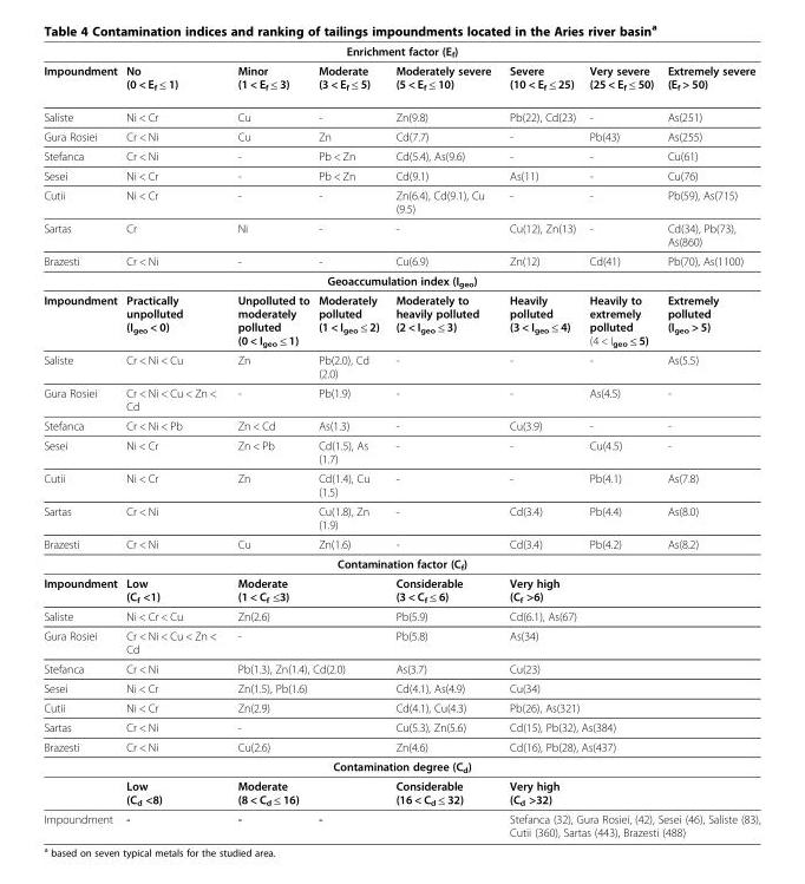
<table><thead><tr><td colspan="8">Enrichment factor (E<sub>f</sub>)</td></tr><tr><td>Impoundment</td><td>No (0 &lt; E<sub>f</sub> ≤ 1)</td><td>Minor (1 &lt; E<sub>f</sub> ≤ 3)</td><td>Moderate (3 &lt; E<sub>f</sub> ≤ 5)</td><td>Moderately severe (5 &lt; E<sub>f</sub> ≤ 10)</td><td>Severe (10 &lt; E<sub>f</sub> ≤ 25)</td><td>Very severe (25 &lt; E<sub>f</sub> ≤ 50)</td><td>Extremely severe (E<sub>f</sub> &gt; 50)</td></tr></thead><tbody><tr><td>Saliste</td><td>Ni &lt; Cr</td><td>Cu</td><td>-</td><td>Zn(9.8)</td><td>Pb(22), Cd(23)</td><td>-</td><td>As(251)</td></tr><tr><td>Gura Rosiei</td><td>Cr &lt; Ni</td><td>Cu</td><td>Zn</td><td>Cd(7.7)</td><td>-</td><td>Pb(43)</td><td>As(255)</td></tr><tr><td>Stefanca</td><td>Cr &lt; Ni</td><td>-</td><td>Pb &lt; Zn</td><td>Cd(5.4), As(9.6)</td><td>-</td><td>-</td><td>Cu(61)</td></tr><tr><td>Sesei</td><td>Ni &lt; Cr</td><td>-</td><td>Pb &lt; Zn</td><td>Cd(9.1)</td><td>As(11)</td><td>-</td><td>Cu(76)</td></tr><tr><td>Cutii</td><td>Ni &lt; Cr</td><td>-</td><td>-</td><td>Zn(6.4), Cd(9.1), Cu (9.5)</td><td>-</td><td>-</td><td>Pb(59), As(715)</td></tr><tr><td>Sartas</td><td>Cr</td><td>Ni</td><td>-</td><td>-</td><td>Cu(12), Zn(13)</td><td>-</td><td>Cd(34), Pb(73), As(860)</td></tr><tr><td>Brazesti</td><td>Cr &lt; Ni</td><td>-</td><td>-</td><td>Cu(6.9)</td><td>Zn(12)</td><td>Cd(41)</td><td>Pb(70), As(1100)</td></tr><tr><td colspan="8">Geoaccumulation index (I<sub>geo</sub>)</td></tr><tr><td>Impoundment</td><td>Practically unpolluted (I<sub>geo</sub> &lt; 0)</td><td>Unpolluted to moderately polluted (0 &lt; I<sub>geo</sub> ≤ 1)</td><td>Moderately polluted (1 &lt; I<sub>geo</sub> ≤ 2)</td><td>Moderately to heavily polluted (2 &lt; I<sub>geo</sub> ≤ 3)</td><td>Heavily polluted (3 &lt; I<sub>geo</sub> ≤ 4)</td><td>Heavily to extremely polluted (4 &lt; I<sub>geo</sub> ≤ 5)</td><td>Extremely polluted (I<sub>geo</sub> &gt; 5)</td></tr><tr><td>Saliste</td><td>Cr &lt; Ni &lt; Cu</td><td>Zn</td><td>Pb(2.0), Cd (2.0)</td><td>-</td><td>-</td><td>-</td><td>As(5.5)</td></tr><tr><td>Gura Rosiei</td><td>Cr &lt; Ni &lt; Cu &lt; Zn &lt; Cd</td><td>-</td><td>Pb(1.9)</td><td>-</td><td>-</td><td>As(4.5)</td><td>-</td></tr><tr><td>Stefanca</td><td>Cr &lt; Ni &lt; Pb</td><td>Zn &lt; Cd</td><td>As(1.3)</td><td>-</td><td>Cu(3.9)</td><td>-</td><td>-</td></tr><tr><td>Sesei</td><td>Ni &lt; Cr</td><td>Zn &lt; Pb</td><td>Cd(1.5), As (1.7)</td><td>-</td><td>-</td><td>Cu(4.5)</td><td>-</td></tr><tr><td>Cutii</td><td>Ni &lt; Cr</td><td>Zn</td><td>Cd(1.4), Cu (1.5)</td><td>-</td><td>-</td><td>Pb(4.1)</td><td>As(7.8)</td></tr><tr><td>Sartas</td><td>Cr &lt; Ni</td><td></td><td>Cu(1.8), Zn (1.9)</td><td>-</td><td>Cd(3.4)</td><td>Pb(4.4)</td><td>As(8.0)</td></tr><tr><td>Brazesti</td><td>Cr &lt; Ni</td><td>Cu</td><td>Zn(1.6)</td><td>-</td><td>Cd(3.4)</td><td>Pb(4.2)</td><td>As(8.2)</td></tr><tr><td colspan="8">Contamination factor (C<sub>f</sub>)</td></tr><tr><td>Impoundment</td><td>Low (C<sub>f</sub> &lt;1)</td><td colspan="2">Moderate (1 &lt; C<sub>f</sub> ≤3)</td><td>Considerable (3 &lt; C<sub>f</sub> ≤ 6)</td><td colspan="3">Very high (C<sub>f</sub> &gt;6)</td></tr><tr><td>Saliste</td><td>Ni &lt; Cr &lt; Cu</td><td colspan="2">Zn(2.6)</td><td>Pb(5.9)</td><td colspan="3">Cd(6.1), As(67)</td></tr><tr><td>Gura Rosiei</td><td>Cr &lt; Ni &lt; Cu &lt; Zn &lt; Cd</td><td colspan="2">-</td><td>Pb(5.8)</td><td colspan="3">As(34)</td></tr><tr><td>Stefanca</td><td>Cr &lt; Ni</td><td colspan="2">Pb(1.3), Zn(1.4), Cd(2.0)</td><td>As(3.7)</td><td colspan="3">Cu(23)</td></tr><tr><td>Sesei</td><td>Ni &lt; Cr</td><td colspan="2">Zn(1.5), Pb(1.6)</td><td>Cd(4.1), As(4.9)</td><td colspan="3">Cu(34)</td></tr><tr><td>Cutii</td><td>Ni &lt; Cr</td><td colspan="2">Zn(2.9)</td><td>Cd(4.1), Cu(4.3)</td><td colspan="3">Pb(26), As(321)</td></tr><tr><td>Sartas</td><td>Cr &lt; Ni</td><td colspan="2">-</td><td>Cu(5.3), Zn(5.6)</td><td colspan="3">Cd(15), Pb(32), As(384)</td></tr><tr><td>Brazesti</td><td>Cr &lt; Ni</td><td colspan="2">Cu(2.6)</td><td>Zn(4.6)</td><td colspan="3">Cd(16), Pb(28), As(437)</td></tr><tr><td colspan="8">Contamination degree (C<sub>d</sub>)</td></tr><tr><td></td><td>Low (C<sub>d</sub> &lt;8)</td><td colspan="2">Moderate (8 &lt; C<sub>d</sub> ≤ 16)</td><td>Considerable (16 &lt; C<sub>d</sub> ≤ 32)</td><td colspan="3">Very high (C<sub>d</sub> &gt;32)</td></tr><tr><td>Impoundment</td><td>-</td><td>-</td><td>-</td><td></td><td colspan="3">Stefanca (32), Gura Rosiei, (42), Sesei (46), Saliste (83), Cutii (360), Sartas (443), Brazesti (488)</td></tr></tbody></table>